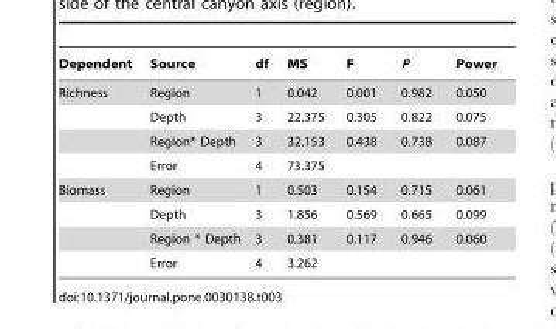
<table><thead><tr><td>Dependent</td><td>Source</td><td>df</td><td>MS</td><td>F</td><td>P</td><td>Power</td></tr></thead><tbody><tr><td rowspan="4">Richness</td><td>Region</td><td>1</td><td>0.042</td><td>0.001</td><td>0.982</td><td>0.050</td></tr><tr><td>Depth</td><td>3</td><td>22.375</td><td>0.305</td><td>0.822</td><td>0.075</td></tr><tr><td>Region* Depth</td><td>3</td><td>32.153</td><td>0.438</td><td>0.738</td><td>0.087</td></tr><tr><td>Error</td><td>4</td><td>73.375</td><td></td><td></td><td></td></tr><tr><td rowspan="4">Biomass</td><td>Region</td><td>1</td><td>0.503</td><td>0.154</td><td>0.715</td><td>0.061</td></tr><tr><td>Depth</td><td>3</td><td>1.856</td><td>0.569</td><td>0.665</td><td>0.099</td></tr><tr><td>Region * Depth</td><td>3</td><td>0.381</td><td>0.117</td><td>0.946</td><td>0.060</td></tr><tr><td>Error</td><td>4</td><td>3.262</td><td></td><td></td><td></td></tr></tbody></table>